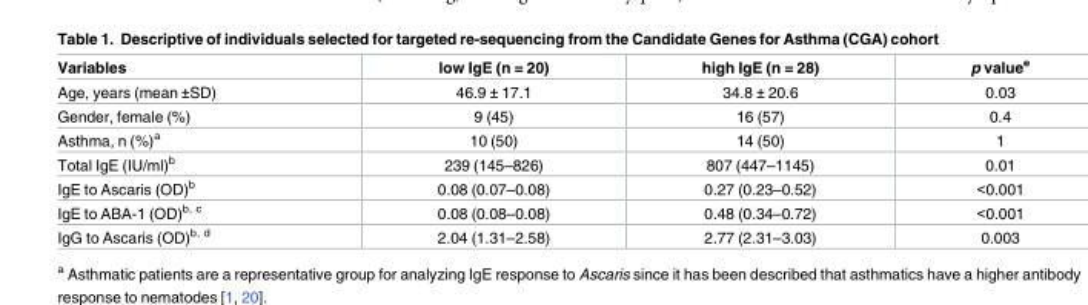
<table><thead><tr><td>Variables</td><td>low IgE (n = 20)</td><td>high IgE (n = 28)</td><td>p value<sup>e</sup></td></tr></thead><tbody><tr><td>Age, years (mean ±SD)</td><td>46.9 ± 17.1</td><td>34.8 ± 20.6</td><td>0.03</td></tr><tr><td>Gender, female (%)</td><td>9 (45)</td><td>16 (57)</td><td>0.4</td></tr><tr><td>Asthma, n (%)<sup>a</sup></td><td>10 (50)</td><td>14 (50)</td><td>1</td></tr><tr><td>Total IgE (IU/ml)<sup>b</sup></td><td>239 (145–826)</td><td>807 (447–1145)</td><td>0.01</td></tr><tr><td>IgE to Ascaris (OD)<sup>b</sup></td><td>0.08 (0.07–0.08)</td><td>0.27 (0.23–0.52)</td><td>&lt;0.001</td></tr><tr><td>IgE to ABA-1 (OD)<sup>b, c</sup></td><td>0.08 (0.08–0.08)</td><td>0.48 (0.34–0.72)</td><td>&lt;0.001</td></tr><tr><td>IgG to Ascaris (OD)<sup>b, d</sup></td><td>2.04 (1.31–2.58)</td><td>2.77 (2.31–3.03)</td><td>0.003</td></tr></tbody></table>